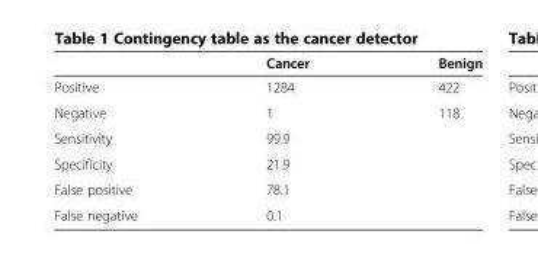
<table><thead><tr><td></td><td>Cancer</td><td>Benign</td></tr></thead><tbody><tr><td>Positive</td><td>1284</td><td>422</td></tr><tr><td>Negative</td><td>1</td><td>118</td></tr><tr><td>Sensitivity</td><td colspan="2">99.9</td></tr><tr><td>Specificity</td><td colspan="2">21.9</td></tr><tr><td>False positive</td><td colspan="2">78.1</td></tr><tr><td>False negative</td><td colspan="2">0.1</td></tr></tbody></table>